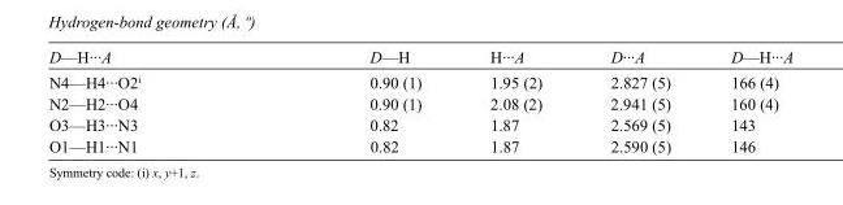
<table><tbody><tr><td>D—H···A</td><td>D—H</td><td>H···A</td><td>D···A</td><td>D—H···A</td></tr><tr><td>N4—H4···O2<sup>i</sup></td><td>0.90 (1)</td><td>1.95 (2)</td><td>2.827 (5)</td><td>166 (4)</td></tr><tr><td>N2—H2···O4</td><td>0.90 (1)</td><td>2.08 (2)</td><td>2.941 (5)</td><td>160 (4)</td></tr><tr><td>O3—H3···N3</td><td>0.82</td><td>1.87</td><td>2.569 (5)</td><td>143</td></tr><tr><td>O1—H1···N1</td><td>0.82</td><td>1.87</td><td>2.590 (5)</td><td>146</td></tr></tbody></table>